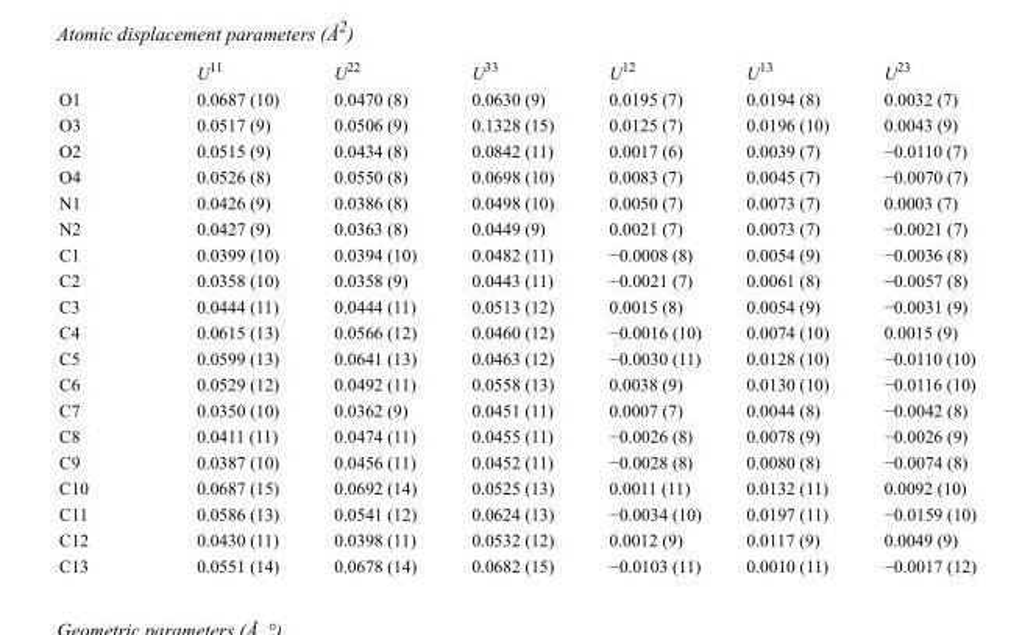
<table><thead><tr><td></td><td>U<sup>11</sup></td><td>U<sup>22</sup></td><td>U<sup>33</sup></td><td>U<sup>12</sup></td><td>U<sup>13</sup></td><td>U<sup>23</sup></td></tr></thead><tbody><tr><td>O1</td><td>0.0687 (10)</td><td>0.0470 (8)</td><td>0.0630 (9)</td><td>0.0195 (7)</td><td>0.0194 (8)</td><td>0.0032 (7)</td></tr><tr><td>O3</td><td>0.0517 (9)</td><td>0.0506 (9)</td><td>0.1328 (15)</td><td>0.0125 (7)</td><td>0.0196 (10)</td><td>0.0043 (9)</td></tr><tr><td>O2</td><td>0.0515 (9)</td><td>0.0434 (8)</td><td>0.0842 (11)</td><td>0.0017 (6)</td><td>0.0039 (7)</td><td>−0.0110 (7)</td></tr><tr><td>O4</td><td>0.0526 (8)</td><td>0.0550 (8)</td><td>0.0698 (10)</td><td>0.0083 (7)</td><td>0.0045 (7)</td><td>−0.0070 (7)</td></tr><tr><td>N1</td><td>0.0426 (9)</td><td>0.0386 (8)</td><td>0.0498 (10)</td><td>0.0050 (7)</td><td>0.0073 (7)</td><td>0.0003 (7)</td></tr><tr><td>N2</td><td>0.0427 (9)</td><td>0.0363 (8)</td><td>0.0449 (9)</td><td>0.0021 (7)</td><td>0.0073 (7)</td><td>−0.0021 (7)</td></tr><tr><td>C1</td><td>0.0399 (10)</td><td>0.0394 (10)</td><td>0.0482 (11)</td><td>−0.0008 (8)</td><td>0.0054 (9)</td><td>−0.0036 (8)</td></tr><tr><td>C2</td><td>0.0358 (10)</td><td>0.0358 (9)</td><td>0.0443 (11)</td><td>−0.0021 (7)</td><td>0.0061 (8)</td><td>−0.0057 (8)</td></tr><tr><td>C3</td><td>0.0444 (11)</td><td>0.0444 (11)</td><td>0.0513 (12)</td><td>0.0015 (8)</td><td>0.0054 (9)</td><td>−0.0031 (9)</td></tr><tr><td>C4</td><td>0.0615 (13)</td><td>0.0566 (12)</td><td>0.0460 (12)</td><td>−0.0016 (10)</td><td>0.0074 (10)</td><td>0.0015 (9)</td></tr><tr><td>C5</td><td>0.0599 (13)</td><td>0.0641 (13)</td><td>0.0463 (12)</td><td>−0.0030 (11)</td><td>0.0128 (10)</td><td>−0.0110 (10)</td></tr><tr><td>C6</td><td>0.0529 (12)</td><td>0.0492 (11)</td><td>0.0558 (13)</td><td>0.0038 (9)</td><td>0.0130 (10)</td><td>−0.0116 (10)</td></tr><tr><td>C7</td><td>0.0350 (10)</td><td>0.0362 (9)</td><td>0.0451 (11)</td><td>0.0007 (7)</td><td>0.0044 (8)</td><td>−0.0042 (8)</td></tr><tr><td>C8</td><td>0.0411 (11)</td><td>0.0474 (11)</td><td>0.0455 (11)</td><td>−0.0026 (8)</td><td>0.0078 (9)</td><td>−0.0026 (9)</td></tr><tr><td>C9</td><td>0.0387 (10)</td><td>0.0456 (11)</td><td>0.0452 (11)</td><td>−0.0028 (8)</td><td>0.0080 (8)</td><td>−0.0074 (8)</td></tr><tr><td>C10</td><td>0.0687 (15)</td><td>0.0692 (14)</td><td>0.0525 (13)</td><td>0.0011 (11)</td><td>0.0132 (11)</td><td>0.0092 (10)</td></tr><tr><td>C11</td><td>0.0586 (13)</td><td>0.0541 (12)</td><td>0.0624 (13)</td><td>−0.0034 (10)</td><td>0.0197 (11)</td><td>−0.0159 (10)</td></tr><tr><td>C12</td><td>0.0430 (11)</td><td>0.0398 (11)</td><td>0.0532 (12)</td><td>0.0012 (9)</td><td>0.0117 (9)</td><td>0.0049 (9)</td></tr><tr><td>C13</td><td>0.0551 (14)</td><td>0.0678 (14)</td><td>0.0682 (15)</td><td>−0.0103 (11)</td><td>0.0010 (11)</td><td>−0.0017 (12)</td></tr></tbody></table>